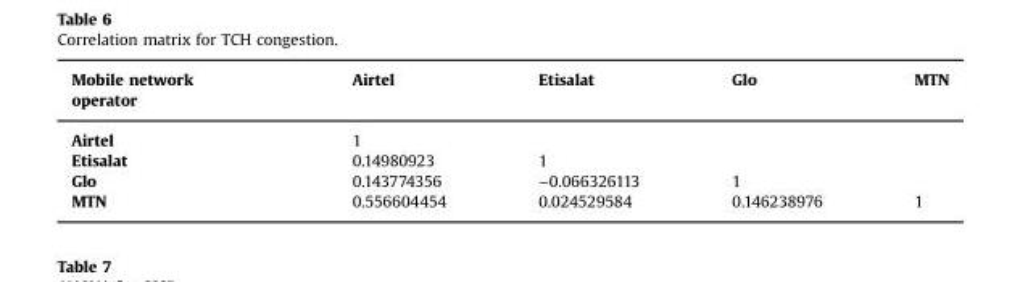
<table><thead><tr><td>Mobile network operator</td><td>Airtel</td><td>Etisalat</td><td>Glo</td><td>MTN</td></tr></thead><tbody><tr><td>Airtel</td><td>1</td><td></td><td></td><td></td></tr><tr><td>Etisalat</td><td>0.14980923</td><td>1</td><td></td><td></td></tr><tr><td>Glo</td><td>0.143774356</td><td>−0.066326113</td><td>1</td><td></td></tr><tr><td>MTN</td><td>0.556604454</td><td>0.024529584</td><td>0.146238976</td><td>1</td></tr></tbody></table>